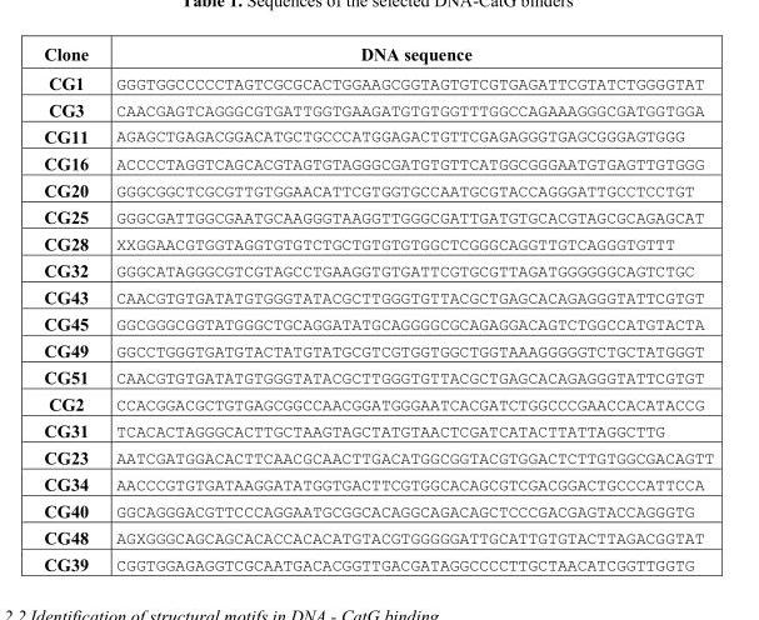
<table><thead><tr><td>Clone</td><td>DNA sequence</td></tr></thead><tbody><tr><td>CG1</td><td>GGGTGGCCCCCTAGTCGCGCACTGGAAGCGGTAGTGTCGTGAGATTCGTATCTGGGGTAT</td></tr><tr><td>CG3</td><td>CAACGAGTCAGGGCGTGATTGGTGAAGATGTGTGGTTTGGCCAGAAAGGGCGATGGTGGA</td></tr><tr><td>CG11</td><td>AGAGCTGAGACGGACATGCTGCCCATGGAGACTGTTCGAGAGGGTGAGCGGGAGTGGG</td></tr><tr><td>CG16</td><td>ACCCCTAGGTCAGCACGTAGTGTAGGGCGATGTGTTCATGGCGGGAATGTGAGTTGTGGG</td></tr><tr><td>CG20</td><td>GGGCGGCTCGCGTTGTGGAACATTCGTGGTGCCAATGCGTACCAGGGATTGCCTCCTGT</td></tr><tr><td>CG25</td><td>GGGCGATTGGCGAATGCAAGGGTAAGGTTGGGCGATTGATGTGCACGTAGCGCAGAGCAT</td></tr><tr><td>CG28</td><td>XXGGAACGTGGTAGGTGTGTCTGCTGTGTGTGGCTCGGGCAGGTTGTCAGGGTGTTT</td></tr><tr><td>CG32</td><td>GGGCATAGGGCGTCGTAGCCTGAAGGTGTGATTCGTGCGTTAGATGGGGGGCAGTCTGC</td></tr><tr><td>CG43</td><td>CAACGTGTGATATGTGGGTATACGCTTGGGTGTTACGCTGAGCACAGAGGGTATTCGTGT</td></tr><tr><td>CG45</td><td>GGCGGGCGGTATGGGCTGCAGGATATGCAGGGGCGCAGAGGACAGTCTGGCCATGTACTA</td></tr><tr><td>CG49</td><td>GGCCTGGGTGATGTACTATGTATGCGTCGTGGTGGCTGGTAAAGGGGGTCTGCTATGGGT</td></tr><tr><td>CG51</td><td>CAACGTGTGATATGTGGGTATACGCTTGGGTGTTACGCTGAGCACAGAGGGTATTCGTGT</td></tr><tr><td>CG2</td><td>CCACGGACGCTGTGAGCGGCCAACGGATGGGAATCACGATCTGGCCCGAACCACATACCG</td></tr><tr><td>CG31</td><td>TCACACTAGGGCACTTGCTAAGTAGCTATGTAACTCGATCATACTTATTAGGCTTG</td></tr><tr><td>CG23</td><td>AATCGATGGACACTTCAACGCAACTTGACATGGCGGTACGTGGACTCTTGTGGCGACAGTT</td></tr><tr><td>CG34</td><td>AACCCGTGTGATAAGGATATGGTGACTTCGTGGCACAGCGTCGACGGACTGCCCATTCCA</td></tr><tr><td>CG40</td><td>GGCAGGGACGTTCCCAGGAATGCGGCACAGGCAGACAGCTCCCGACGAGTACCAGGGTG</td></tr><tr><td>CG48</td><td>AGXGGGCAGCAGCACACCACACATGTACGTGGGGGATTGCATTGTGTACTTAGACGGTAT</td></tr><tr><td>CG39</td><td>CGGTGGAGAGGTCGCAATGACACGGTTGACGATAGGCCCCTTGCTAACATCGGTTGGTG</td></tr></tbody></table>